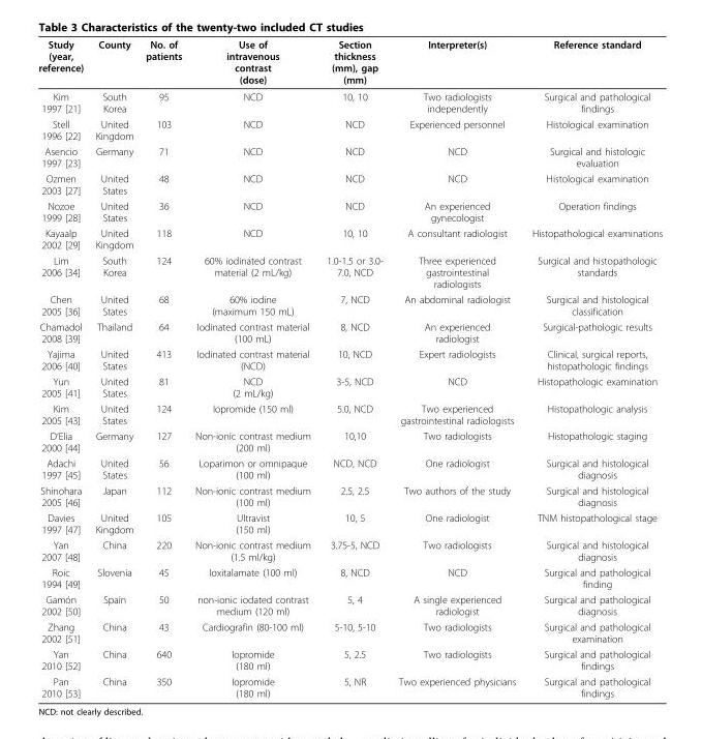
<table><thead><tr><td>Study (year, reference)</td><td>County</td><td>No. of patients</td><td>Use of intravenous contrast (dose)</td><td>Section thickness (mm), gap (mm)</td><td>Interpreter(s)</td><td>Reference standard</td></tr></thead><tbody><tr><td>Kim 1997 [21]</td><td>South Korea</td><td>95</td><td>NCD</td><td>10, 10</td><td>Two radiologists independently</td><td>Surgical and pathological findings</td></tr><tr><td>Stell 1996 [22]</td><td>United Kingdom</td><td>103</td><td>NCD</td><td>NCD</td><td>Experienced personnel</td><td>Histological examination</td></tr><tr><td>Asencio 1997 [23]</td><td>Germany</td><td>71</td><td>NCD</td><td>NCD</td><td>NCD</td><td>Surgical and histologic evaluation</td></tr><tr><td>Ozmen 2003 [27]</td><td>United States</td><td>48</td><td>NCD</td><td>NCD</td><td>NCD</td><td>Histological examination</td></tr><tr><td>Nozoe 1999 [28]</td><td>United States</td><td>36</td><td>NCD</td><td>NCD</td><td>An experienced gynecologist</td><td>Operation findings</td></tr><tr><td>Kayaalp 2002 [29]</td><td>United Kingdom</td><td>118</td><td>NCD</td><td>10, 10</td><td>A consultant radiologist</td><td>Histopathological examinations</td></tr><tr><td>Lim 2006 [34]</td><td>South Korea</td><td>124</td><td>60% iodinated contrast material (2 mL/kg)</td><td>1.0-1.5 or 3.0- 7.0, NCD</td><td>Three experienced gastrointestinal radiologists</td><td>Surgical and histopathologic standards</td></tr><tr><td>Chen 2005 [36]</td><td>United States</td><td>68</td><td>60% iodine (maximum 150 mL)</td><td>7, NCD</td><td>An abdominal radiologist</td><td>Surgical and histological classification</td></tr><tr><td>Chamadol 2008 [39]</td><td>Thailand</td><td>64</td><td>Iodinated contrast material (100 mL)</td><td>8, NCD</td><td>An experienced radiologist</td><td>Surgical-pathologic results</td></tr><tr><td>Yajima 2006 [40]</td><td>United States</td><td>413</td><td>Iodinated contrast material (NCD)</td><td>10, NCD</td><td>Expert radiologists</td><td>Clinical, surgical reports, histopathologic findings</td></tr><tr><td>Yun 2005 [41]</td><td>United States</td><td>81</td><td>NCD (2 mL/kg)</td><td>3-5, NCD</td><td>NCD</td><td>Histopathologic examination</td></tr><tr><td>Kim 2005 [43]</td><td>United States</td><td>124</td><td>Iopromide (150 ml)</td><td>5.0, NCD</td><td>Two experienced gastrointestinal radiologists</td><td>Histopathologic analysis</td></tr><tr><td>D’Elia 2000 [44]</td><td>Germany</td><td>127</td><td>Non-ionic contrast medium (200 ml)</td><td>10,10</td><td>Two radiologists</td><td>Histopathologic staging</td></tr><tr><td>Adachi 1997 [45]</td><td>United States</td><td>56</td><td>Loparimon or omnipaque (100 ml)</td><td>NCD, NCD</td><td>One radiologist</td><td>Surgical and histological diagnosis</td></tr><tr><td>Shinohara 2005 [46]</td><td>Japan</td><td>112</td><td>Non-ionic contrast medium (100 ml)</td><td>2.5, 2.5</td><td>Two authors of the study</td><td>Surgical and histological diagnosis</td></tr><tr><td>Davies 1997 [47]</td><td>United Kingdom</td><td>105</td><td>Ultravist (150 ml)</td><td>10, 5</td><td>One radiologist</td><td>TNM histopathological stage</td></tr><tr><td>Yan 2007 [48]</td><td>China</td><td>220</td><td>Non-ionic contrast medium (1.5 ml/kg)</td><td>3.75-5, NCD</td><td>Two radiologists</td><td>Surgical and histological diagnosis</td></tr><tr><td>Roic 1994 [49]</td><td>Slovenia</td><td>45</td><td>Ioxitalamate (100 ml)</td><td>8, NCD</td><td>NCD</td><td>Surgical and pathological finding</td></tr><tr><td>Gamón 2002 [50]</td><td>Spain</td><td>50</td><td>non-ionic iodated contrast medium (120 ml)</td><td>5, 4</td><td>A single experienced radiologist</td><td>Surgical and pathological diagnosis</td></tr><tr><td>Zhang 2002 [51]</td><td>China</td><td>43</td><td>Cardiografin (80-100 ml)</td><td>5-10, 5-10</td><td>Two radiologists</td><td>Surgical and pathological examination</td></tr><tr><td>Yan 2010 [52]</td><td>China</td><td>640</td><td>Iopromide (180 ml)</td><td>5, 2.5</td><td>Two radiologists</td><td>Surgical and pathological findings</td></tr><tr><td>Pan 2010 [53]</td><td>China</td><td>350</td><td>Iopromide (180 ml)</td><td>5, NR</td><td>Two experienced physicians</td><td>Surgical and pathological findings</td></tr></tbody></table>